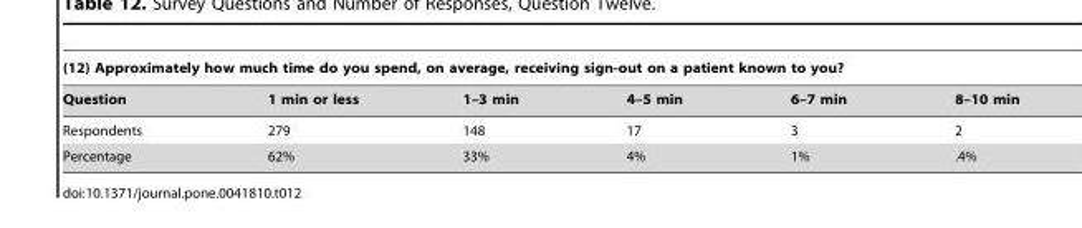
<table><thead><tr><td colspan="6">(12) Approximately how much time do you spend, on average, receiving sign-out on a patient known to you?</td></tr><tr><td>Question</td><td>1 min or less</td><td>1–3 min</td><td>4–5 min</td><td>6–7 min</td><td>8–10 min</td></tr></thead><tbody><tr><td>Respondents</td><td>279</td><td>148</td><td>17</td><td>3</td><td>2</td></tr><tr><td>Percentage</td><td>62%</td><td>33%</td><td>4%</td><td>1%</td><td>.4%</td></tr></tbody></table>